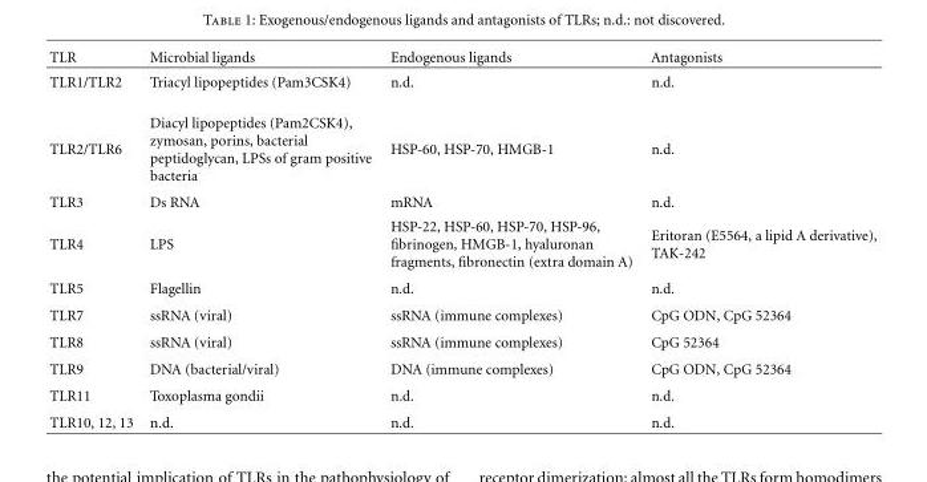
<table><thead><tr><td>TLR</td><td>Microbial ligands</td><td>Endogenous ligands</td><td>Antagonists</td></tr></thead><tbody><tr><td>TLR1/TLR2</td><td>Triacyl lipopeptides (Pam3CSK4)</td><td>n.d.</td><td>n.d.</td></tr><tr><td>TLR2/TLR6</td><td>Diacyl lipopeptides (Pam2CSK4), zymosan, porins, bacterial peptidoglycan, LPSs of gram positive bacteria</td><td>HSP-60, HSP-70, HMGB-1</td><td>n.d.</td></tr><tr><td>TLR3</td><td>Ds RNA</td><td>mRNA</td><td>n.d.</td></tr><tr><td>TLR4</td><td>LPS</td><td>HSP-22, HSP-60, HSP-70, HSP-96, fibrinogen, HMGB-1, hyaluronan fragments, fibronectin (extra domain A)</td><td>Eritoran (E5564, a lipid A derivative), TAK-242</td></tr><tr><td>TLR5</td><td>Flagellin</td><td>n.d.</td><td>n.d.</td></tr><tr><td>TLR7</td><td>ssRNA (viral)</td><td>ssRNA (immune complexes)</td><td>CpG ODN, CpG 52364</td></tr><tr><td>TLR8</td><td>ssRNA (viral)</td><td>ssRNA (immune complexes)</td><td>CpG 52364</td></tr><tr><td>TLR9</td><td>DNA (bacterial/viral)</td><td>DNA (immune complexes)</td><td>CpG ODN, CpG 52364</td></tr><tr><td>TLR11</td><td>Toxoplasma gondii</td><td>n.d.</td><td>n.d.</td></tr><tr><td>TLR10, 12, 13</td><td>n.d.</td><td>n.d.</td><td>n.d.</td></tr></tbody></table>